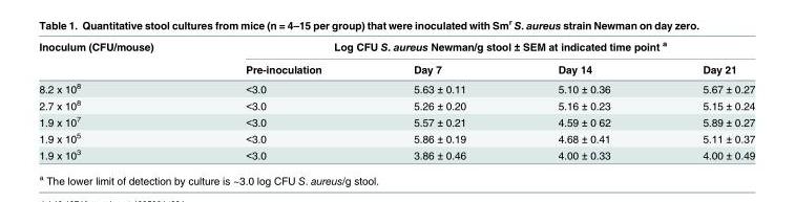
<table><thead><tr><td rowspan="2">Inoculum (CFU/mouse)</td><td colspan="4">Log CFU S. aureus Newman/g stool ± SEM at indicated time point <sup>a</sup></td></tr><tr><td>Pre-inoculation</td><td>Day 7</td><td>Day 14</td><td>Day 21</td></tr></thead><tbody><tr><td>8.2 x 10<sup>8</sup></td><td>&lt;3.0</td><td>5.63 ± 0.11</td><td>5.10 ± 0.36</td><td>5.67 ± 0.27</td></tr><tr><td>2.7 x 10<sup>8</sup></td><td>&lt;3.0</td><td>5.26 ± 0.20</td><td>5.16 ± 0.23</td><td>5.15 ± 0.24</td></tr><tr><td>1.9 x 10<sup>7</sup></td><td>&lt;3.0</td><td>5.57 ± 0.21</td><td>4.59 ± 0 62</td><td>5.89 ± 0.27</td></tr><tr><td>1.9 x 10<sup>5</sup></td><td>&lt;3.0</td><td>5.86 ± 0.19</td><td>4.68 ± 0.41</td><td>5.11 ± 0.37</td></tr><tr><td>1.9 x 10<sup>3</sup></td><td>&lt;3.0</td><td>3.86 ± 0.46</td><td>4.00 ± 0.33</td><td>4.00 ± 0.49</td></tr></tbody></table>